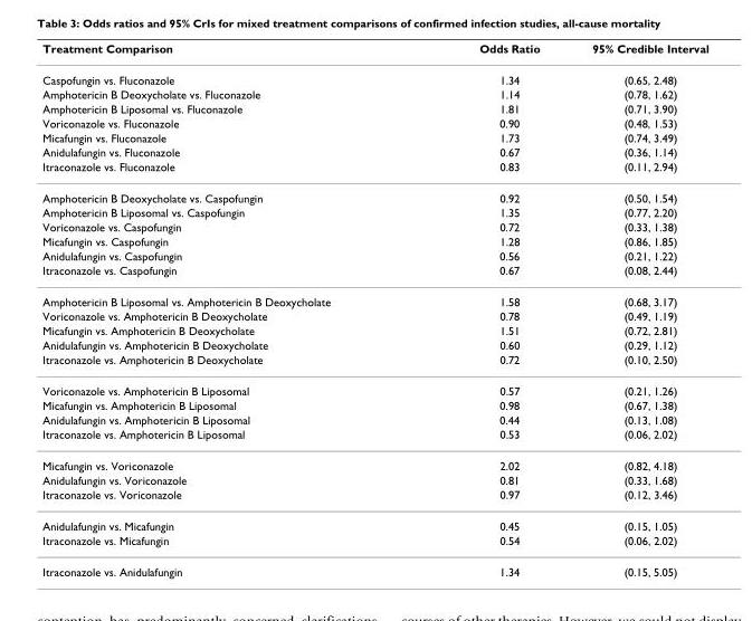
<table><thead><tr><td>Treatment Comparison</td><td>Odds Ratio</td><td>95% Credible Interval</td></tr></thead><tbody><tr><td>Caspofungin vs. Fluconazole</td><td>1.34</td><td>(0.65, 2.48)</td></tr><tr><td>Amphotericin B Deoxycholate vs. Fluconazole</td><td>1.14</td><td>(0.78, 1.62)</td></tr><tr><td>Amphotericin B Liposomal vs. Fluconazole</td><td>1.81</td><td>(0.71, 3.90)</td></tr><tr><td>Voriconazole vs. Fluconazole</td><td>0.90</td><td>(0.48, 1.53)</td></tr><tr><td>Micafungin vs. Fluconazole</td><td>1.73</td><td>(0.74, 3.49)</td></tr><tr><td>Anidulafungin vs. Fluconazole</td><td>0.67</td><td>(0.36, 1.14)</td></tr><tr><td>Itraconazole vs. Fluconazole</td><td>0.83</td><td>(0.11, 2.94)</td></tr><tr><td>Amphotericin B Deoxycholate vs. Caspofungin</td><td>0.92</td><td>(0.50, 1.54)</td></tr><tr><td>Amphotericin B Liposomal vs. Caspofungin</td><td>1.35</td><td>(0.77, 2.20)</td></tr><tr><td>Voriconazole vs. Caspofungin</td><td>0.72</td><td>(0.33, 1.38)</td></tr><tr><td>Micafungin vs. Caspofungin</td><td>1.28</td><td>(0.86, 1.85)</td></tr><tr><td>Anidulafungin vs. Caspofungin</td><td>0.56</td><td>(0.21, 1.22)</td></tr><tr><td>Itraconazole vs. Caspofungin</td><td>0.67</td><td>(0.08, 2.44)</td></tr><tr><td>Amphotericin B Liposomal vs. Amphotericin B Deoxycholate</td><td>1.58</td><td>(0.68, 3.17)</td></tr><tr><td>Voriconazole vs. Amphotericin B Deoxycholate</td><td>0.78</td><td>(0.49, 1.19)</td></tr><tr><td>Micafungin vs. Amphotericin B Deoxycholate</td><td>1.51</td><td>(0.72, 2.81)</td></tr><tr><td>Anidulafungin vs. Amphotericin B Deoxycholate</td><td>0.60</td><td>(0.29, 1.12)</td></tr><tr><td>Itraconazole vs. Amphotericin B Deoxycholate</td><td>0.72</td><td>(0.10, 2.50)</td></tr><tr><td>Voriconazole vs. Amphotericin B Liposomal</td><td>0.57</td><td>(0.21, 1.26)</td></tr><tr><td>Micafungin vs. Amphotericin B Liposomal</td><td>0.98</td><td>(0.67, 1.38)</td></tr><tr><td>Anidulafungin vs. Amphotericin B Liposomal</td><td>0.44</td><td>(0.13, 1.08)</td></tr><tr><td>Itraconazole vs. Amphotericin B Liposomal</td><td>0.53</td><td>(0.06, 2.02)</td></tr><tr><td>Micafungin vs. Voriconazole</td><td>2.02</td><td>(0.82, 4.18)</td></tr><tr><td>Anidulafungin vs. Voriconazole</td><td>0.81</td><td>(0.33, 1.68)</td></tr><tr><td>Itraconazole vs. Voriconazole</td><td>0.97</td><td>(0.12, 3.46)</td></tr><tr><td>Anidulafungin vs. Micafungin</td><td>0.45</td><td>(0.15, 1.05)</td></tr><tr><td>Itraconazole vs. Micafungin</td><td>0.54</td><td>(0.06, 2.02)</td></tr><tr><td>Itraconazole vs. Anidulafungin</td><td>1.34</td><td>(0.15, 5.05)</td></tr></tbody></table>